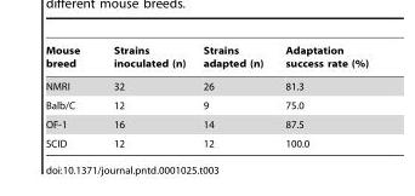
<table><thead><tr><td>Mouse breed</td><td>Strains inoculated (n)</td><td>Strains adapted (n)</td><td>Adaptation success rate (%)</td></tr></thead><tbody><tr><td>NMRI</td><td>32</td><td>26</td><td>81.3</td></tr><tr><td>Balb/C</td><td>12</td><td>9</td><td>75.0</td></tr><tr><td>OF-1</td><td>16</td><td>14</td><td>87.5</td></tr><tr><td>SCID</td><td>12</td><td>12</td><td>100.0</td></tr></tbody></table>